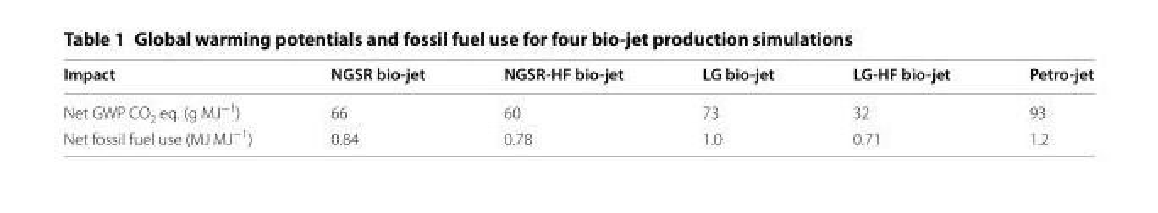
<table><thead><tr><td>Impact</td><td>NGSR bio-jet</td><td>NGSR-HF bio-jet</td><td>LG bio-jet</td><td>LG-HF bio-jet</td><td>Petro-jet</td></tr></thead><tbody><tr><td>Net GWP CO<sub>2</sub> eq. (g MJ<sup>−1</sup>)</td><td>66</td><td>60</td><td>73</td><td>32</td><td>93</td></tr><tr><td>Net fossil fuel use (MJ MJ<sup>−1</sup>)</td><td>0.84</td><td>0.78</td><td>1.0</td><td>0.71</td><td>1.2</td></tr></tbody></table>